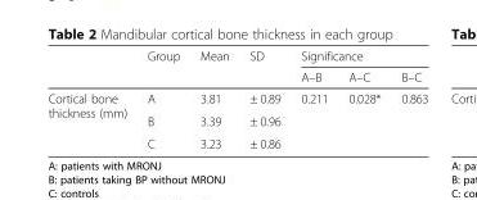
<table><thead><tr><td rowspan="2"></td><td rowspan="2">Group</td><td rowspan="2">Mean</td><td rowspan="2">SD</td><td colspan="3">Significance</td></tr><tr><td>A–B</td><td>A–C</td><td>B–C</td></tr></thead><tbody><tr><td rowspan="3">Cortical bone thickness (mm)</td><td>A</td><td>3.81</td><td>± 0.89</td><td rowspan="3">0.211</td><td rowspan="3">0.028*</td><td rowspan="3">0.863</td></tr><tr><td>B</td><td>3.39</td><td>± 0.96</td></tr><tr><td>C</td><td>3.23</td><td>± 0.86</td></tr></tbody></table>